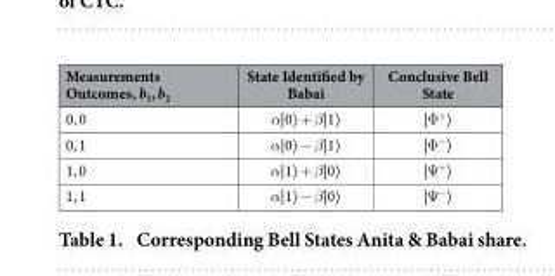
<table><thead><tr><td>Measurements Outcomes, b<sub>1</sub>, b<sub>2</sub></td><td>State Identified by Babai</td><td>Conclusive Bell State</td></tr></thead><tbody><tr><td>0, 0</td><td>α|0〉 + β|1〉</td><td>|Φ <sup>+</sup>〉</td></tr><tr><td>0, 1</td><td>α|0〉 − β|1〉</td><td>|Φ <sup>−</sup>〉</td></tr><tr><td>1, 0</td><td>α|1〉 + β|0〉</td><td>|Ψ <sup>+</sup>〉</td></tr><tr><td>1, 1</td><td>α|1〉 − β|0〉</td><td>|Ψ <sup>−</sup>〉</td></tr></tbody></table>